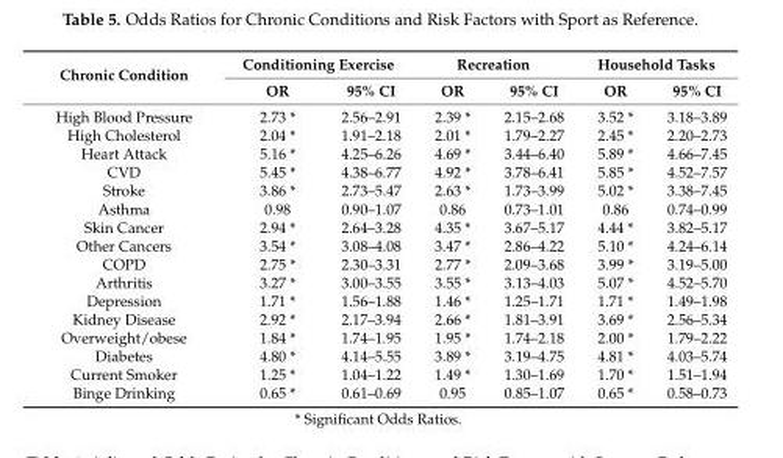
<table><thead><tr><td rowspan="2">Chronic Condition</td><td colspan="2">Conditioning Exercise</td><td colspan="2">Recreation</td><td colspan="2">Household Tasks</td></tr><tr><td>OR</td><td>95% CI</td><td>OR</td><td>95% CI</td><td>OR</td><td>95% CI</td></tr></thead><tbody><tr><td>High Blood Pressure</td><td>2.73 *</td><td>2.56–2.91</td><td>2.39 *</td><td>2.15–2.68</td><td>3.52 *</td><td>3.18–3.89</td></tr><tr><td>High Cholesterol</td><td>2.04 *</td><td>1.91–2.18</td><td>2.01 *</td><td>1.79–2.27</td><td>2.45 *</td><td>2.20–2.73</td></tr><tr><td>Heart Attack</td><td>5.16 *</td><td>4.25–6.26</td><td>4.69 *</td><td>3.44–6.40</td><td>5.89 *</td><td>4.66–7.45</td></tr><tr><td>CVD</td><td>5.45 *</td><td>4.38–6.77</td><td>4.92 *</td><td>3.78–6.41</td><td>5.85 *</td><td>4.52–7.57</td></tr><tr><td>Stroke</td><td>3.86 *</td><td>2.73–5.47</td><td>2.63 *</td><td>1.73–3.99</td><td>5.02 *</td><td>3.38–7.45</td></tr><tr><td>Asthma</td><td>0.98</td><td>0.90–1.07</td><td>0.86</td><td>0.73–1.01</td><td>0.86</td><td>0.74–0.99</td></tr><tr><td>Skin Cancer</td><td>2.94 *</td><td>2.64–3.28</td><td>4.35 *</td><td>3.67–5.17</td><td>4.44 *</td><td>3.82–5.17</td></tr><tr><td>Other Cancers</td><td>3.54 *</td><td>3.08–4.08</td><td>3.47 *</td><td>2.86–4.22</td><td>5.10 *</td><td>4.24–6.14</td></tr><tr><td>COPD</td><td>2.75 *</td><td>2.30–3.31</td><td>2.77 *</td><td>2.09–3.68</td><td>3.99 *</td><td>3.19–5.00</td></tr><tr><td>Arthritis</td><td>3.27 *</td><td>3.00–3.55</td><td>3.55 *</td><td>3.13–4.03</td><td>5.07 *</td><td>4.52–5.70</td></tr><tr><td>Depression</td><td>1.71 *</td><td>1.56–1.88</td><td>1.46 *</td><td>1.25–1.71</td><td>1.71 *</td><td>1.49–1.98</td></tr><tr><td>Kidney Disease</td><td>2.92 *</td><td>2.17–3.94</td><td>2.66 *</td><td>1.81–3.91</td><td>3.69 *</td><td>2.56–5.34</td></tr><tr><td>Overweight/obese</td><td>1.84 *</td><td>1.74–1.95</td><td>1.95 *</td><td>1.74–2.18</td><td>2.00 *</td><td>1.79–2.22</td></tr><tr><td>Diabetes</td><td>4.80 *</td><td>4.14–5.55</td><td>3.89 *</td><td>3.19–4.75</td><td>4.81 *</td><td>4.03–5.74</td></tr><tr><td>Current Smoker</td><td>1.25 *</td><td>1.04–1.22</td><td>1.49 *</td><td>1.30–1.69</td><td>1.70 *</td><td>1.51–1.94</td></tr><tr><td>Binge Drinking</td><td>0.65 *</td><td>0.61–0.69</td><td>0.95</td><td>0.85–1.07</td><td>0.65 *</td><td>0.58–0.73</td></tr></tbody></table>